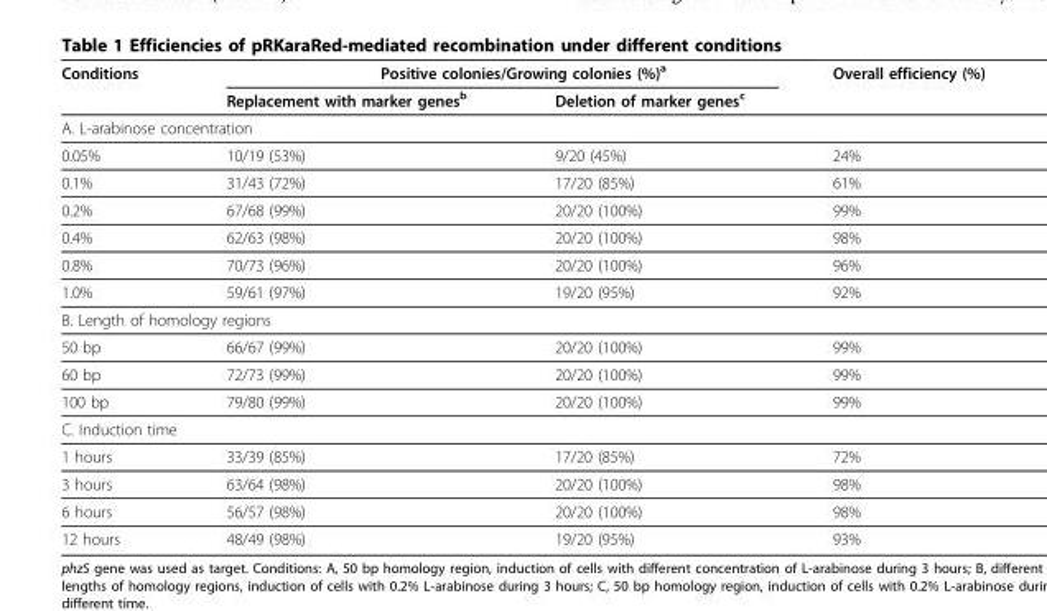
<table><thead><tr><td rowspan="2">Conditions</td><td colspan="2">Positive colonies/Growing colonies (%)<sup>a</sup></td><td rowspan="2">Overall efficiency (%)</td></tr><tr><td>Replacement with marker genes<sup>b</sup></td><td>Deletion of marker genes<sup>c</sup></td></tr></thead><tbody><tr><td colspan="4">A. L-arabinose concentration</td></tr><tr><td>0.05%</td><td>10/19 (53%)</td><td>9/20 (45%)</td><td>24%</td></tr><tr><td>0.1%</td><td>31/43 (72%)</td><td>17/20 (85%)</td><td>61%</td></tr><tr><td>0.2%</td><td>67/68 (99%)</td><td>20/20 (100%)</td><td>99%</td></tr><tr><td>0.4%</td><td>62/63 (98%)</td><td>20/20 (100%)</td><td>98%</td></tr><tr><td>0.8%</td><td>70/73 (96%)</td><td>20/20 (100%)</td><td>96%</td></tr><tr><td>1.0%</td><td>59/61 (97%)</td><td>19/20 (95%)</td><td>92%</td></tr><tr><td colspan="4">B. Length of homology regions</td></tr><tr><td>50 bp</td><td>66/67 (99%)</td><td>20/20 (100%)</td><td>99%</td></tr><tr><td>60 bp</td><td>72/73 (99%)</td><td>20/20 (100%)</td><td>99%</td></tr><tr><td>100 bp</td><td>79/80 (99%)</td><td>20/20 (100%)</td><td>99%</td></tr><tr><td colspan="4">C. Induction time</td></tr><tr><td>1 hours</td><td>33/39 (85%)</td><td>17/20 (85%)</td><td>72%</td></tr><tr><td>3 hours</td><td>63/64 (98%)</td><td>20/20 (100%)</td><td>98%</td></tr><tr><td>6 hours</td><td>56/57 (98%)</td><td>20/20 (100%)</td><td>98%</td></tr><tr><td>12 hours</td><td>48/49 (98%)</td><td>19/20 (95%)</td><td>93%</td></tr></tbody></table>